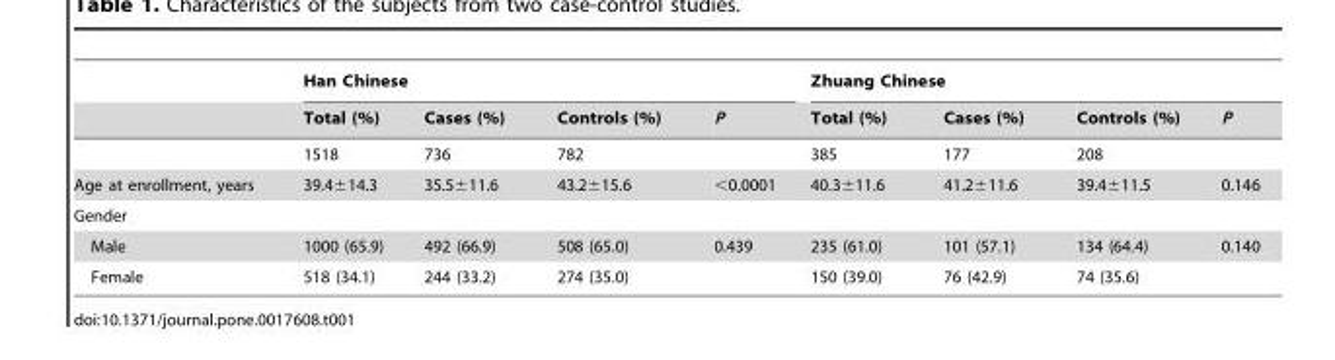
<table><thead><tr><td rowspan="2"></td><td colspan="4">Han Chinese</td><td colspan="4">Zhuang Chinese</td></tr><tr><td>Total (%)</td><td>Cases (%)</td><td>Controls (%)</td><td>P</td><td>Total (%)</td><td>Cases (%)</td><td>Controls (%)</td><td>P</td></tr></thead><tbody><tr><td></td><td>1518</td><td>736</td><td>782</td><td></td><td>385</td><td>177</td><td>208</td><td></td></tr><tr><td>Age at enrollment, years</td><td>39.4±14.3</td><td>35.5±11.6</td><td>43.2±15.6</td><td>&lt;0.0001</td><td>40.3±11.6</td><td>41.2±11.6</td><td>39.4±11.5</td><td>0.146</td></tr><tr><td colspan="9">Gender</td></tr><tr><td>Male</td><td>1000 (65.9)</td><td>492 (66.9)</td><td>508 (65.0)</td><td>0.439</td><td>235 (61.0)</td><td>101 (57.1)</td><td>134 (64.4)</td><td>0.140</td></tr><tr><td>Female</td><td>518 (34.1)</td><td>244 (33.2)</td><td>274 (35.0)</td><td></td><td>150 (39.0)</td><td>76 (42.9)</td><td>74 (35.6)</td><td></td></tr></tbody></table>